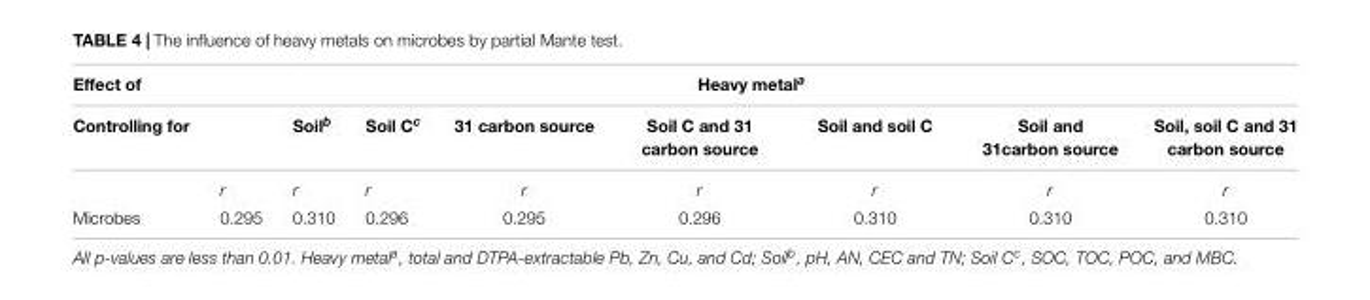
<table><thead><tr><td rowspan="2">Effect of Controlling for</td><td colspan="8">Heavy metala</td></tr><tr><td></td><td>Soil<sup>b</sup></td><td>Soil C<sup>c</sup></td><td>31 carbon source</td><td>Soil C and 31 carbon source</td><td>Soil and soil C</td><td>Soil and 31carbon source</td><td>Soil, soil C and 31 carbon source</td></tr></thead><tbody><tr><td></td><td>r</td><td>r</td><td>r</td><td>r</td><td>r</td><td>r</td><td>r</td><td>r</td></tr><tr><td>Microbes</td><td>0.295</td><td>0.310</td><td>0.296</td><td>0.295</td><td>0.296</td><td>0.310</td><td>0.310</td><td>0.310</td></tr></tbody></table>